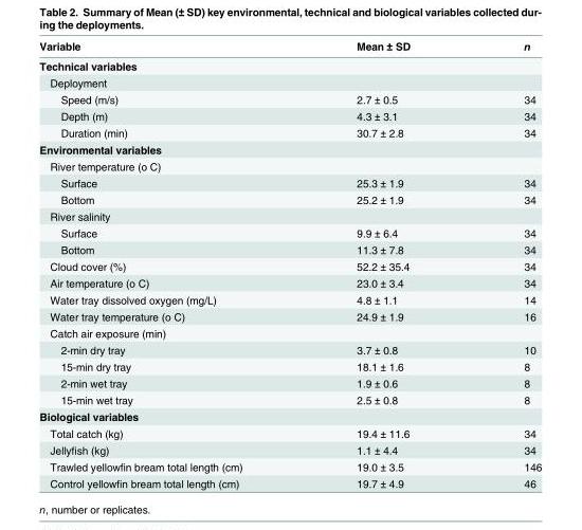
<table><thead><tr><td>Variable</td><td>Mean ± SD</td><td>n</td></tr></thead><tbody><tr><td colspan="3">Technical variables</td></tr><tr><td colspan="3">Deployment</td></tr><tr><td>Speed (m/s)</td><td>2.7 ± 0.5</td><td>34</td></tr><tr><td>Depth (m)</td><td>4.3 ± 3.1</td><td>34</td></tr><tr><td>Duration (min)</td><td>30.7 ± 2.8</td><td>34</td></tr><tr><td colspan="3">Environmental variables</td></tr><tr><td colspan="3">River temperature (o C)</td></tr><tr><td>Surface</td><td>25.3 ± 1.9</td><td>34</td></tr><tr><td>Bottom</td><td>25.2 ± 1.9</td><td>34</td></tr><tr><td colspan="3">River salinity</td></tr><tr><td>Surface</td><td>9.9 ± 6.4</td><td>34</td></tr><tr><td>Bottom</td><td>11.3 ± 7.8</td><td>34</td></tr><tr><td>Cloud cover (%)</td><td>52.2 ± 35.4</td><td>34</td></tr><tr><td>Air temperature (o C)</td><td>23.0 ± 3.4</td><td>34</td></tr><tr><td>Water tray dissolved oxygen (mg/L)</td><td>4.8 ± 1.1</td><td>14</td></tr><tr><td>Water tray temperature (o C)</td><td>24.9 ± 1.9</td><td>16</td></tr><tr><td colspan="3">Catch air exposure (min)</td></tr><tr><td>2-min dry tray</td><td>3.7 ± 0.8</td><td>10</td></tr><tr><td>15-min dry tray</td><td>18.1 ± 1.6</td><td>8</td></tr><tr><td>2-min wet tray</td><td>1.9 ± 0.6</td><td>8</td></tr><tr><td>15-min wet tray</td><td>2.5 ± 0.8</td><td>8</td></tr><tr><td colspan="3">Biological variables</td></tr><tr><td>Total catch (kg)</td><td>19.4 ± 11.6</td><td>34</td></tr><tr><td>Jellyfish (kg)</td><td>1.1 ± 4.4</td><td>34</td></tr><tr><td>Trawled yellowfin bream total length (cm)</td><td>19.0 ± 3.5</td><td>146</td></tr><tr><td>Control yellowfin bream total length (cm)</td><td>19.7 ± 4.9</td><td>46</td></tr></tbody></table>